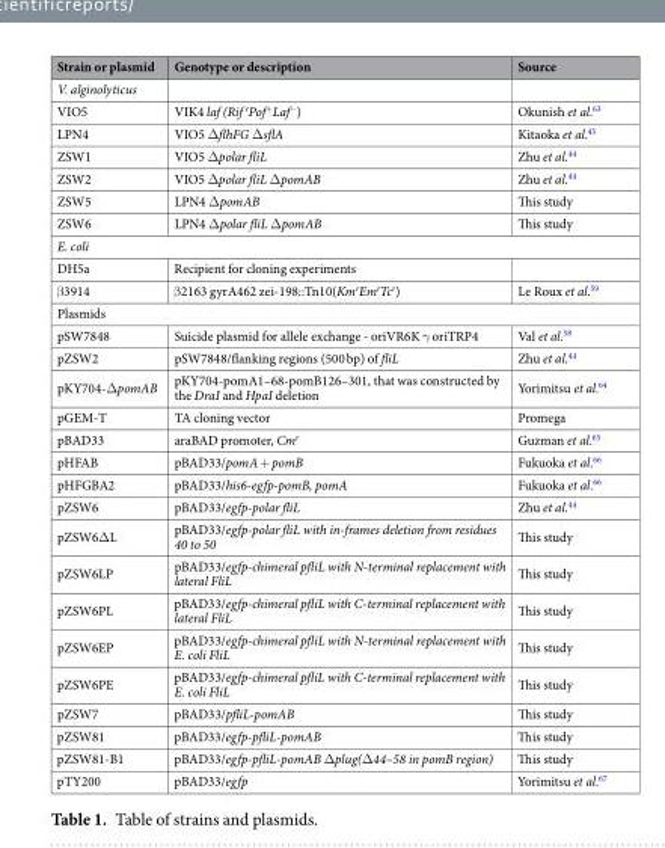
<table><thead><tr><td>Strain or plasmid</td><td>Genotype or description</td><td>Source</td></tr></thead><tbody><tr><td colspan="3">V. alginolyticus</td></tr><tr><td>VIO5</td><td>VIK4 laf (Rif <sup>r</sup>Pof<sup>+</sup>Laf<sup>−</sup>)</td><td>Okunish et al.<sup>63</sup></td></tr><tr><td>LPN4</td><td>VIO5 ΔflhFG ΔsflA</td><td>Kitaoka et al.<sup>45</sup></td></tr><tr><td>ZSW1</td><td>VIO5 Δpolar fliL</td><td>Zhu et al.<sup>44</sup></td></tr><tr><td>ZSW2</td><td>VIO5 Δpolar fliL ΔpomAB</td><td>Zhu et al.<sup>44</sup></td></tr><tr><td>ZSW5</td><td>LPN4 ΔpomAB</td><td>This study</td></tr><tr><td>ZSW6</td><td>LPN4 Δpolar fliL ΔpomAB</td><td>This study</td></tr><tr><td colspan="3">E. coli</td></tr><tr><td>DH5a</td><td>Recipient for cloning experiments</td><td></td></tr><tr><td>β3914</td><td>β2163 gyrA462 zei-198::Tn10(Km<sup>r</sup>Em<sup>r</sup>Tc<sup>r</sup>)</td><td>Le Roux et al.<sup>59</sup></td></tr><tr><td colspan="3">Plasmids</td></tr><tr><td>pSW7848</td><td>Suicide plasmid for allele exchange - oriVR6K γ oriTRP4</td><td>Val et al.<sup>58</sup></td></tr><tr><td>pZSW2</td><td>pSW7848/flanking regions (500 bp) of fliL</td><td>Zhu et al.<sup>44</sup></td></tr><tr><td>pKY704-ΔpomAB</td><td>pKY704-pomA1–68-pomB126–301, that was constructed by the DraI and HpaI deletion</td><td>Yorimitsu et al.<sup>64</sup></td></tr><tr><td>pGEM-T</td><td>TA cloning vector</td><td>Promega</td></tr><tr><td>pBAD33</td><td>araBAD promoter, Cm<sup>r</sup></td><td>Guzman et al.<sup>65</sup></td></tr><tr><td>pHFAB</td><td>pBAD33/pomA + pomB</td><td>Fukuoka et al.<sup>66</sup></td></tr><tr><td>pHFGBA2</td><td>pBAD33/his6-egfp-pomB, pomA</td><td>Fukuoka et al.<sup>66</sup></td></tr><tr><td>pZSW6</td><td>pBAD33/egfp-polar fliL</td><td>Zhu et al.<sup>44</sup></td></tr><tr><td>pZSW6ΔL</td><td>pBAD33/egfp-polar fliL with in-frames deletion from residues 40 to 50</td><td>This study</td></tr><tr><td>pZSW6LP</td><td>pBAD33/egfp-chimeral pfliL with N-terminal replacement with lateral FliL</td><td>This study</td></tr><tr><td>pZSW6PL</td><td>pBAD33/egfp-chimeral pfliL with C-terminal replacement with lateral FliL</td><td>This study</td></tr><tr><td>pZSW6EP</td><td>pBAD33/egfp-chimeral pfliL with N-terminal replacement with E. coli FliL</td><td>This study</td></tr><tr><td>pZSW6PE</td><td>pBAD33/egfp-chimeral pfliL with C-terminal replacement with E. coli FliL</td><td>This study</td></tr><tr><td>pZSW7</td><td>pBAD33/pfliL-pomAB</td><td>This study</td></tr><tr><td>pZSW81</td><td>pBAD33/egfp-pfliL-pomAB</td><td>This study</td></tr><tr><td>pZSW81-B1</td><td>pBAD33/egfp-pfliL-pomAB Δplug(Δ44–58 in pomB region)</td><td>This study</td></tr><tr><td>pTY200</td><td>pBAD33/egfp</td><td>Yorimitsu et al.<sup>67</sup></td></tr></tbody></table>